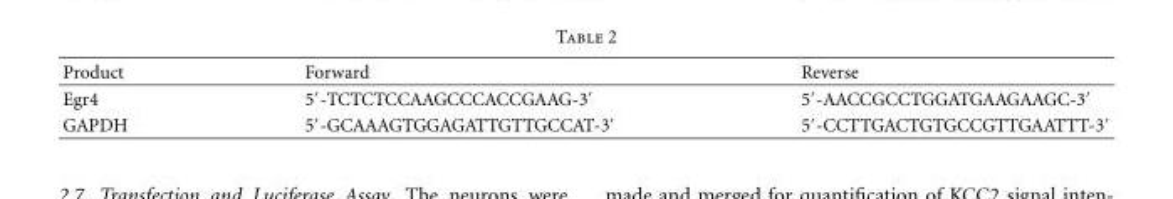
<table><thead><tr><td>Product</td><td>Forward</td><td>Reverse</td></tr></thead><tbody><tr><td>Egr4</td><td>5′-TCTCTCCAAGCCCACCGAAG-3′</td><td>5′-AACCGCCTGGATGAAGAAGC-3′</td></tr><tr><td>GAPDH</td><td>5′-GCAAAGTGGAGATTGTTGCCAT-3′</td><td>5′-CCTTGACTGTGCCGTTGAATTT-3′</td></tr></tbody></table>